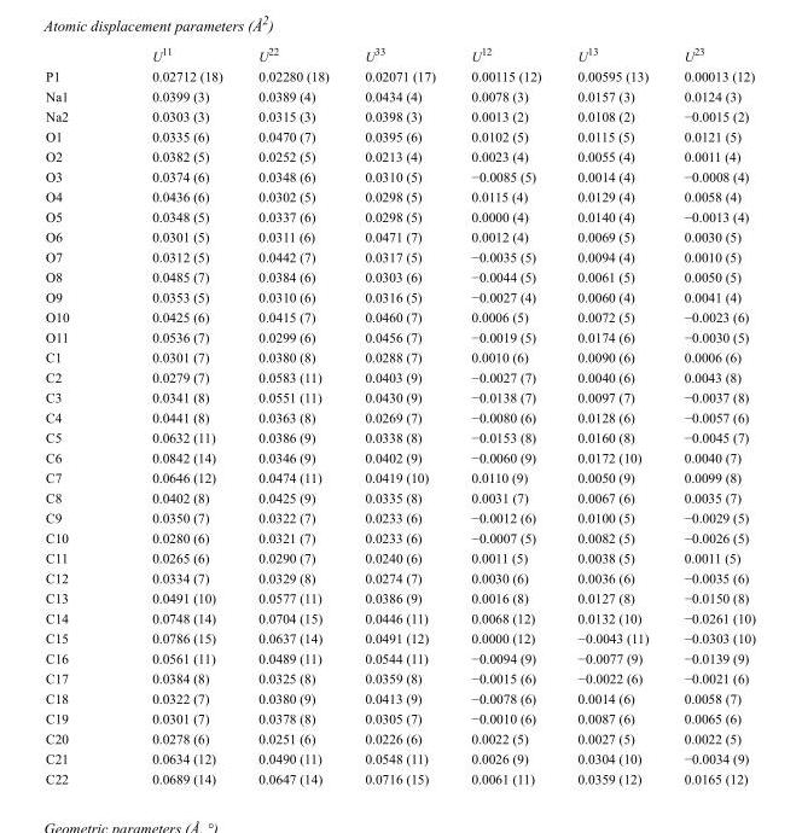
<table><thead><tr><td></td><td>U<sup>11</sup></td><td>U<sup>22</sup></td><td>U<sup>33</sup></td><td>U<sup>12</sup></td><td>U<sup>13</sup></td><td>U<sup>23</sup></td></tr></thead><tbody><tr><td>P1</td><td>0.02712 (18)</td><td>0.02280 (18)</td><td>0.02071 (17)</td><td>0.00115 (12)</td><td>0.00595 (13)</td><td>0.00013 (12)</td></tr><tr><td>Na1</td><td>0.0399 (3)</td><td>0.0389 (4)</td><td>0.0434 (4)</td><td>0.0078 (3)</td><td>0.0157 (3)</td><td>0.0124 (3)</td></tr><tr><td>Na2</td><td>0.0303 (3)</td><td>0.0315 (3)</td><td>0.0398 (3)</td><td>0.0013 (2)</td><td>0.0108 (2)</td><td>−0.0015 (2)</td></tr><tr><td>O1</td><td>0.0335 (6)</td><td>0.0470 (7)</td><td>0.0395 (6)</td><td>0.0102 (5)</td><td>0.0115 (5)</td><td>0.0121 (5)</td></tr><tr><td>O2</td><td>0.0382 (5)</td><td>0.0252 (5)</td><td>0.0213 (4)</td><td>0.0023 (4)</td><td>0.0055 (4)</td><td>0.0011 (4)</td></tr><tr><td>O3</td><td>0.0374 (6)</td><td>0.0348 (6)</td><td>0.0310 (5)</td><td>−0.0085 (5)</td><td>0.0014 (4)</td><td>−0.0008 (4)</td></tr><tr><td>O4</td><td>0.0436 (6)</td><td>0.0302 (5)</td><td>0.0298 (5)</td><td>0.0115 (4)</td><td>0.0129 (4)</td><td>0.0058 (4)</td></tr><tr><td>O5</td><td>0.0348 (5)</td><td>0.0337 (6)</td><td>0.0298 (5)</td><td>0.0000 (4)</td><td>0.0140 (4)</td><td>−0.0013 (4)</td></tr><tr><td>O6</td><td>0.0301 (5)</td><td>0.0311 (6)</td><td>0.0471 (7)</td><td>0.0012 (4)</td><td>0.0069 (5)</td><td>0.0030 (5)</td></tr><tr><td>O7</td><td>0.0312 (5)</td><td>0.0442 (7)</td><td>0.0317 (5)</td><td>−0.0035 (5)</td><td>0.0094 (4)</td><td>0.0010 (5)</td></tr><tr><td>O8</td><td>0.0485 (7)</td><td>0.0384 (6)</td><td>0.0303 (6)</td><td>−0.0044 (5)</td><td>0.0061 (5)</td><td>0.0050 (5)</td></tr><tr><td>O9</td><td>0.0353 (5)</td><td>0.0310 (6)</td><td>0.0316 (5)</td><td>−0.0027 (4)</td><td>0.0060 (4)</td><td>0.0041 (4)</td></tr><tr><td>O10</td><td>0.0425 (6)</td><td>0.0415 (7)</td><td>0.0460 (7)</td><td>0.0006 (5)</td><td>0.0072 (5)</td><td>−0.0023 (6)</td></tr><tr><td>O11</td><td>0.0536 (7)</td><td>0.0299 (6)</td><td>0.0456 (7)</td><td>−0.0019 (5)</td><td>0.0174 (6)</td><td>−0.0030 (5)</td></tr><tr><td>C1</td><td>0.0301 (7)</td><td>0.0380 (8)</td><td>0.0288 (7)</td><td>0.0010 (6)</td><td>0.0090 (6)</td><td>0.0006 (6)</td></tr><tr><td>C2</td><td>0.0279 (7)</td><td>0.0583 (11)</td><td>0.0403 (9)</td><td>−0.0027 (7)</td><td>0.0040 (6)</td><td>0.0043 (8)</td></tr><tr><td>C3</td><td>0.0341 (8)</td><td>0.0551 (11)</td><td>0.0430 (9)</td><td>−0.0138 (7)</td><td>0.0097 (7)</td><td>−0.0037 (8)</td></tr><tr><td>C4</td><td>0.0441 (8)</td><td>0.0363 (8)</td><td>0.0269 (7)</td><td>−0.0080 (6)</td><td>0.0128 (6)</td><td>−0.0057 (6)</td></tr><tr><td>C5</td><td>0.0632 (11)</td><td>0.0386 (9)</td><td>0.0338 (8)</td><td>−0.0153 (8)</td><td>0.0160 (8)</td><td>−0.0045 (7)</td></tr><tr><td>C6</td><td>0.0842 (14)</td><td>0.0346 (9)</td><td>0.0402 (9)</td><td>−0.0060 (9)</td><td>0.0172 (10)</td><td>0.0040 (7)</td></tr><tr><td>C7</td><td>0.0646 (12)</td><td>0.0474 (11)</td><td>0.0419 (10)</td><td>0.0110 (9)</td><td>0.0050 (9)</td><td>0.0099 (8)</td></tr><tr><td>C8</td><td>0.0402 (8)</td><td>0.0425 (9)</td><td>0.0335 (8)</td><td>0.0031 (7)</td><td>0.0067 (6)</td><td>0.0035 (7)</td></tr><tr><td>C9</td><td>0.0350 (7)</td><td>0.0322 (7)</td><td>0.0233 (6)</td><td>−0.0012 (6)</td><td>0.0100 (5)</td><td>−0.0029 (5)</td></tr><tr><td>C10</td><td>0.0280 (6)</td><td>0.0321 (7)</td><td>0.0233 (6)</td><td>−0.0007 (5)</td><td>0.0082 (5)</td><td>−0.0026 (5)</td></tr><tr><td>C11</td><td>0.0265 (6)</td><td>0.0290 (7)</td><td>0.0240 (6)</td><td>0.0011 (5)</td><td>0.0038 (5)</td><td>0.0011 (5)</td></tr><tr><td>C12</td><td>0.0334 (7)</td><td>0.0329 (8)</td><td>0.0274 (7)</td><td>0.0030 (6)</td><td>0.0036 (6)</td><td>−0.0035 (6)</td></tr><tr><td>C13</td><td>0.0491 (10)</td><td>0.0577 (11)</td><td>0.0386 (9)</td><td>0.0016 (8)</td><td>0.0127 (8)</td><td>−0.0150 (8)</td></tr><tr><td>C14</td><td>0.0748 (14)</td><td>0.0704 (15)</td><td>0.0446 (11)</td><td>0.0068 (12)</td><td>0.0132 (10)</td><td>−0.0261 (10)</td></tr><tr><td>C15</td><td>0.0786 (15)</td><td>0.0637 (14)</td><td>0.0491 (12)</td><td>0.0000 (12)</td><td>−0.0043 (11)</td><td>−0.0303 (10)</td></tr><tr><td>C16</td><td>0.0561 (11)</td><td>0.0489 (11)</td><td>0.0544 (11)</td><td>−0.0094 (9)</td><td>−0.0077 (9)</td><td>−0.0139 (9)</td></tr><tr><td>C17</td><td>0.0384 (8)</td><td>0.0325 (8)</td><td>0.0359 (8)</td><td>−0.0015 (6)</td><td>−0.0022 (6)</td><td>−0.0021 (6)</td></tr><tr><td>C18</td><td>0.0322 (7)</td><td>0.0380 (9)</td><td>0.0413 (9)</td><td>−0.0078 (6)</td><td>0.0014 (6)</td><td>0.0058 (7)</td></tr><tr><td>C19</td><td>0.0301 (7)</td><td>0.0378 (8)</td><td>0.0305 (7)</td><td>−0.0010 (6)</td><td>0.0087 (6)</td><td>0.0065 (6)</td></tr><tr><td>C20</td><td>0.0278 (6)</td><td>0.0251 (6)</td><td>0.0226 (6)</td><td>0.0022 (5)</td><td>0.0027 (5)</td><td>0.0022 (5)</td></tr><tr><td>C21</td><td>0.0634 (12)</td><td>0.0490 (11)</td><td>0.0548 (11)</td><td>0.0026 (9)</td><td>0.0304 (10)</td><td>−0.0034 (9)</td></tr><tr><td>C22</td><td>0.0689 (14)</td><td>0.0647 (14)</td><td>0.0716 (15)</td><td>0.0061 (11)</td><td>0.0359 (12)</td><td>0.0165 (12)</td></tr></tbody></table>